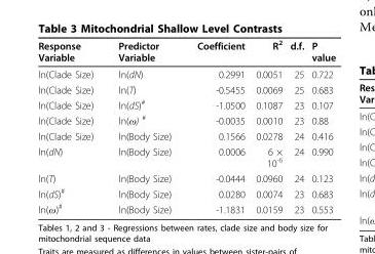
<table><thead><tr><td>Response Variable</td><td>Predictor Variable</td><td>Coefficient</td><td>R<sup>2</sup></td><td>d.f.</td><td>P value</td></tr></thead><tbody><tr><td>ln(Clade Size)</td><td>ln(dN)</td><td>0.2991</td><td>0.0051</td><td>25</td><td>0.722</td></tr><tr><td>ln(Clade Size)</td><td>ln(T)</td><td>-0.5455</td><td>0.0069</td><td>25</td><td>0.683</td></tr><tr><td>ln(Clade Size)</td><td>ln(dS)<sup>#</sup></td><td>-1.0500</td><td>0.1087</td><td>23</td><td>0.107</td></tr><tr><td>ln(Clade Size)</td><td>ln(ω) <sup>#</sup></td><td>-0.0035</td><td>0.0010</td><td>23</td><td>0.88</td></tr><tr><td>ln(Clade Size)</td><td>ln(Body Size)</td><td>0.1566</td><td>0.0278</td><td>24</td><td>0.416</td></tr><tr><td>ln(dN)</td><td>ln(Body Size)</td><td>0.0006</td><td>6 × 10<sup>-6</sup></td><td>24</td><td>0.990</td></tr><tr><td>ln(T)</td><td>ln(Body Size)</td><td>-0.0444</td><td>0.0960</td><td>24</td><td>0.123</td></tr><tr><td>ln(dS)<sup>#</sup></td><td>ln(Body Size)</td><td>0.0280</td><td>0.0074</td><td>23</td><td>0.683</td></tr><tr><td>ln(ω)<sup>#</sup></td><td>ln(Body Size)</td><td>-1.1831</td><td>0.0159</td><td>23</td><td>0.553</td></tr></tbody></table>